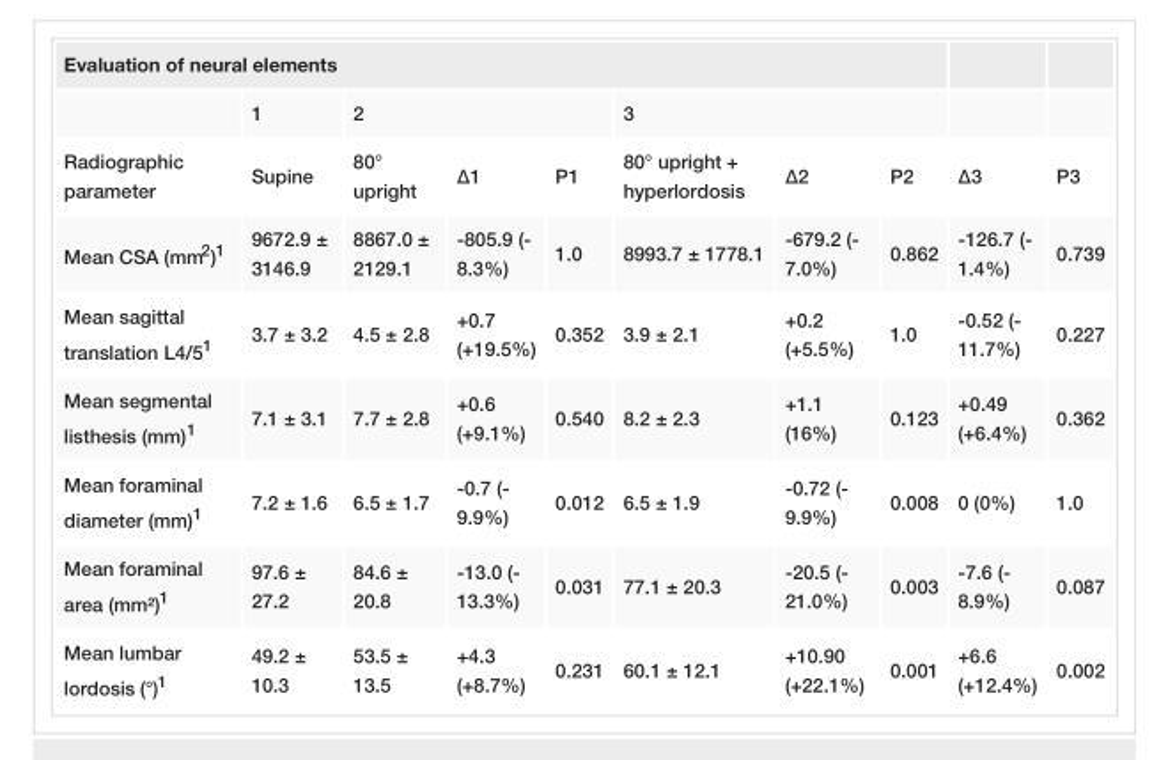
<table><tbody><tr><td colspan="10">Evaluation of neural elements</td></tr><tr><td></td><td>1</td><td colspan="3">2</td><td colspan="3">3</td><td></td><td></td></tr><tr><td>Radiographic parameter</td><td>Supine</td><td>80° upright</td><td>Δ1</td><td>P1</td><td>80° upright + hyperlordosis</td><td>Δ2</td><td>P2</td><td>Δ3</td><td>P3</td></tr><tr><td>Mean CSA (mm<sup>2</sup>)<sup>1</sup></td><td>9672.9 ± 3146.9</td><td>8867.0 ± 2129.1</td><td>-805.9 (- 8.3%)</td><td>1.0</td><td>8993.7 ± 1778.1</td><td>-679.2 (- 7.0%)</td><td>0.862</td><td>-126.7 (- 1.4%)</td><td>0.739</td></tr><tr><td>Mean sagittal translation L4/5<sup>1</sup></td><td>3.7 ± 3.2</td><td>4.5 ± 2.8</td><td>+0.7 (+19.5%)</td><td>0.352</td><td>3.9 ± 2.1</td><td>+0.2 (+5.5%)</td><td>1.0</td><td>-0.52 (- 11.7%)</td><td>0.227</td></tr><tr><td>Mean segmental listhesis (mm)<sup>1</sup></td><td>7.1 ± 3.1</td><td>7.7 ± 2.8</td><td>+0.6 (+9.1%)</td><td>0.540</td><td>8.2 ± 2.3</td><td>+1.1 (16%)</td><td>0.123</td><td>+0.49 (+6.4%)</td><td>0.362</td></tr><tr><td>Mean foraminal diameter (mm)<sup>1</sup></td><td>7.2 ± 1.6</td><td>6.5 ± 1.7</td><td>-0.7 (- 9.9%)</td><td>0.012</td><td>6.5 ± 1.9</td><td>-0.72 (- 9.9%)</td><td>0.008</td><td>0 (0%)</td><td>1.0</td></tr><tr><td>Mean foraminal area (mm²)<sup>1</sup></td><td>97.6 ± 27.2</td><td>84.6 ± 20.8</td><td>-13.0 (- 13.3%)</td><td>0.031</td><td>77.1 ± 20.3</td><td>-20.5 (- 21.0%)</td><td>0.003</td><td>-7.6 (- 8.9%)</td><td>0.087</td></tr><tr><td>Mean lumbar lordosis (°)<sup>1</sup></td><td>49.2 ± 10.3</td><td>53.5 ± 13.5</td><td>+4.3 (+8.7%)</td><td>0.231</td><td>60.1 ± 12.1</td><td>+10.90 (+22.1%)</td><td>0.001</td><td>+6.6 (+12.4%)</td><td>0.002</td></tr></tbody></table>